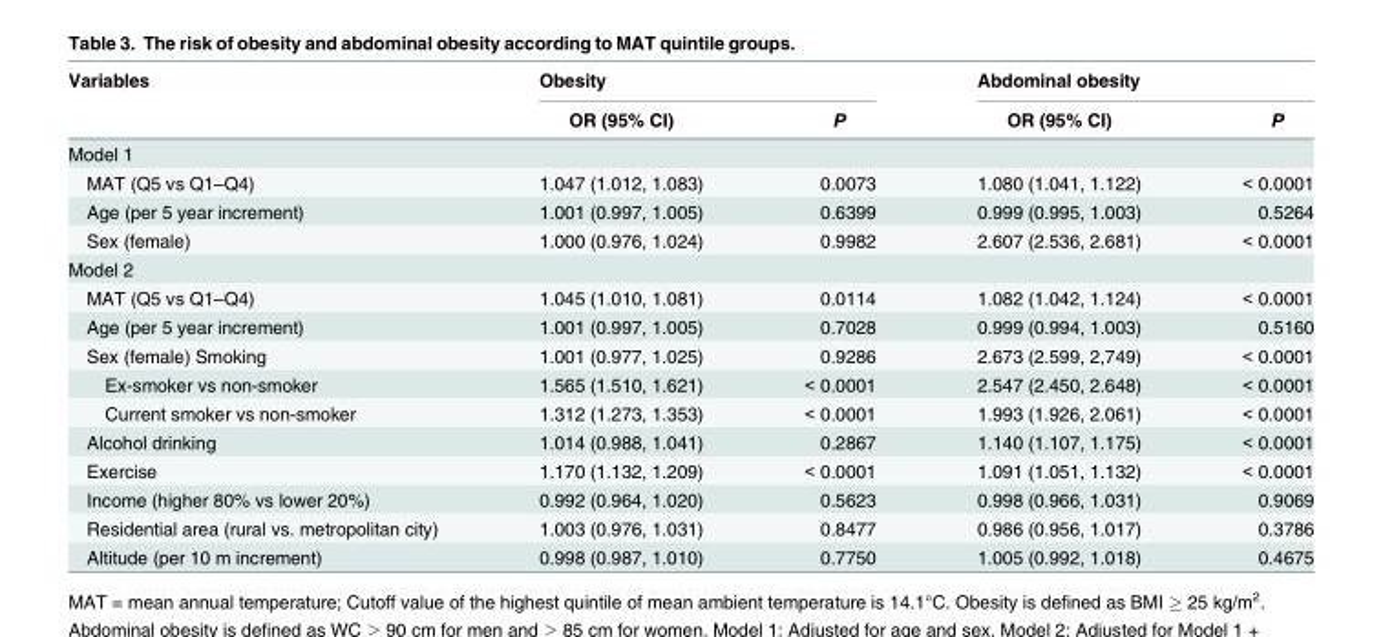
<table><thead><tr><td rowspan="2">Variables</td><td colspan="2">Obesity</td><td colspan="2">Abdominal obesity</td></tr><tr><td>OR (95% CI)</td><td>P</td><td>OR (95% CI)</td><td>P</td></tr></thead><tbody><tr><td colspan="5">Model 1</td></tr><tr><td>MAT (Q5 vs Q1–Q4)</td><td>1.047 (1.012, 1.083)</td><td>0.0073</td><td>1.080 (1.041, 1.122)</td><td>&lt; 0.0001</td></tr><tr><td>Age (per 5 year increment)</td><td>1.001 (0.997, 1.005)</td><td>0.6399</td><td>0.999 (0.995, 1.003)</td><td>0.5264</td></tr><tr><td>Sex (female)</td><td>1.000 (0.976, 1.024)</td><td>0.9982</td><td>2.607 (2.536, 2.681)</td><td>&lt; 0.0001</td></tr><tr><td colspan="5">Model 2</td></tr><tr><td>MAT (Q5 vs Q1–Q4)</td><td>1.045 (1.010, 1.081)</td><td>0.0114</td><td>1.082 (1.042, 1.124)</td><td>&lt; 0.0001</td></tr><tr><td>Age (per 5 year increment)</td><td>1.001 (0.997, 1.005)</td><td>0.7028</td><td>0.999 (0.994, 1.003)</td><td>0.5160</td></tr><tr><td>Sex (female) Smoking</td><td>1.001 (0.977, 1.025)</td><td>0.9286</td><td>2.673 (2.599, 2,749)</td><td>&lt; 0.0001</td></tr><tr><td>Ex-smoker vs non-smoker</td><td>1.565 (1.510, 1.621)</td><td>&lt; 0.0001</td><td>2.547 (2.450, 2.648)</td><td>&lt; 0.0001</td></tr><tr><td>Current smoker vs non-smoker</td><td>1.312 (1.273, 1.353)</td><td>&lt; 0.0001</td><td>1.993 (1.926, 2.061)</td><td>&lt; 0.0001</td></tr><tr><td>Alcohol drinking</td><td>1.014 (0.988, 1.041)</td><td>0.2867</td><td>1.140 (1.107, 1.175)</td><td>&lt; 0.0001</td></tr><tr><td>Exercise</td><td>1.170 (1.132, 1.209)</td><td>&lt; 0.0001</td><td>1.091 (1.051, 1.132)</td><td>&lt; 0.0001</td></tr><tr><td>Income (higher 80% vs lower 20%)</td><td>0.992 (0.964, 1.020)</td><td>0.5623</td><td>0.998 (0.966, 1.031)</td><td>0.9069</td></tr><tr><td>Residential area (rural vs. metropolitan city)</td><td>1.003 (0.976, 1.031)</td><td>0.8477</td><td>0.986 (0.956, 1.017)</td><td>0.3786</td></tr><tr><td>Altitude (per 10 m increment)</td><td>0.998 (0.987, 1.010)</td><td>0.7750</td><td>1.005 (0.992, 1.018)</td><td>0.4675</td></tr></tbody></table>